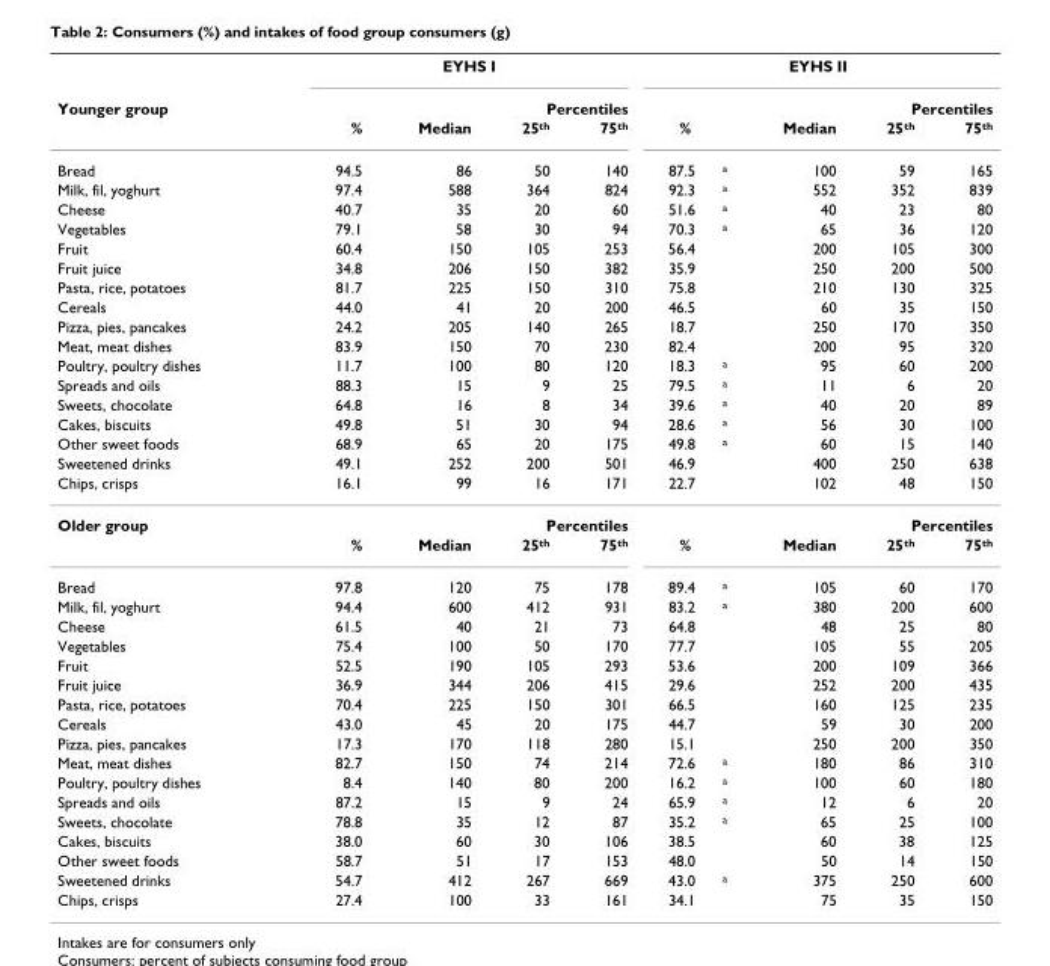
<table><thead><tr><td rowspan="20">Younger group Bread Milk, fil, yoghurt Cheese Vegetables Fruit Fruit juice Pasta, rice, potatoes Cereals Pizza, pies, pancakes Meat, meat dishes Poultry, poultry dishes Spreads and oils Sweets, chocolate Cakes, biscuits Other sweet foods Sweetened drinks Chips, crisps</td><td colspan="4">EYHS I</td><td colspan="5">EYHS II</td></tr><tr><td rowspan="19">% 94.5 97.4 40.7 79.1 60.4 34.8 81.7 44.0 24.2 83.9 11.7 88.3 64.8 49.8 68.9 49.1 16.1</td><td rowspan="19">Median 86 588 35 58 150 206 225 41 205 150 100 15 16 51 65 252 99</td><td colspan="2">Percentiles</td><td></td><td></td><td rowspan="19">Median 100 552 40 65 200 250 210 60 250 200 95 11 40 56 60 400 102</td><td colspan="2">Percentiles</td></tr><tr><td rowspan="18">25th 50 364 20 30 105 150 150 20 140 70 80 9 8 30 20 200 16</td><td rowspan="18">75th 140 824 60 94 253 382 310 200 265 230 120 25 34 94 175 501 171</td><td colspan="2">%</td><td rowspan="18">25th 59 352 23 36 105 200 130 35 170 95 60 6 20 30 15 250 48</td><td rowspan="18">75th 165 839 80 120 300 500 325 150 350 320 200 20 89 100 140 638 150</td></tr><tr><td rowspan="17">87.5 92.3 51.6 70.3 56.4 35.9 75.8 46.5 18.7 82.4 18.3 79.5 39.6 28.6 49.8 46.9 22.7</td><td rowspan="17">a a a a a a a a a</td></tr><tr></tr><tr></tr><tr></tr><tr></tr><tr></tr><tr></tr><tr></tr><tr></tr><tr></tr><tr></tr><tr></tr><tr></tr><tr></tr><tr></tr><tr></tr><tr></tr></thead><tbody><tr><td rowspan="2">Older group</td><td></td><td></td><td colspan="2">Percentiles</td><td></td><td></td><td></td><td colspan="2">Percentiles</td></tr><tr><td>%</td><td>Median</td><td>25th</td><td>75th</td><td colspan="2">%</td><td>Median</td><td>25th</td><td>75th</td></tr><tr><td>Bread</td><td>97.8</td><td>120</td><td>75</td><td>178</td><td>89.4</td><td><sup>a</sup></td><td>105</td><td>60</td><td>170</td></tr><tr><td>Milk, fil, yoghurt</td><td>94.4</td><td>600</td><td>412</td><td>931</td><td>83.2</td><td><sup>a</sup></td><td>380</td><td>200</td><td>600</td></tr><tr><td>Cheese</td><td>61.5</td><td>40</td><td>21</td><td>73</td><td>64.8</td><td></td><td>48</td><td>25</td><td>80</td></tr><tr><td>Vegetables</td><td>75.4</td><td>100</td><td>50</td><td>170</td><td>77.7</td><td></td><td>105</td><td>55</td><td>205</td></tr><tr><td>Fruit</td><td>52.5</td><td>190</td><td>105</td><td>293</td><td>53.6</td><td></td><td>200</td><td>109</td><td>366</td></tr><tr><td>Fruit juice</td><td>36.9</td><td>344</td><td>206</td><td>415</td><td>29.6</td><td></td><td>252</td><td>200</td><td>435</td></tr><tr><td>Pasta, rice, potatoes</td><td>70.4</td><td>225</td><td>150</td><td>301</td><td>66.5</td><td></td><td>160</td><td>125</td><td>235</td></tr><tr><td>Cereals</td><td>43.0</td><td>45</td><td>20</td><td>175</td><td>44.7</td><td></td><td>59</td><td>30</td><td>200</td></tr><tr><td>Pizza, pies, pancakes</td><td>17.3</td><td>170</td><td>118</td><td>280</td><td>15.1</td><td></td><td>250</td><td>200</td><td>350</td></tr><tr><td>Meat, meat dishes</td><td>82.7</td><td>150</td><td>74</td><td>214</td><td>72.6</td><td><sup>a</sup></td><td>180</td><td>86</td><td>310</td></tr><tr><td>Poultry, poultry dishes</td><td>8.4</td><td>140</td><td>80</td><td>200</td><td>16.2</td><td><sup>a</sup></td><td>100</td><td>60</td><td>180</td></tr><tr><td>Spreads and oils</td><td>87.2</td><td>15</td><td>9</td><td>24</td><td>65.9</td><td><sup>a</sup></td><td>12</td><td>6</td><td>20</td></tr><tr><td>Sweets, chocolate</td><td>78.8</td><td>35</td><td>12</td><td>87</td><td>35.2</td><td><sup>a</sup></td><td>65</td><td>25</td><td>100</td></tr><tr><td>Cakes, biscuits</td><td>38.0</td><td>60</td><td>30</td><td>106</td><td>38.5</td><td></td><td>60</td><td>38</td><td>125</td></tr><tr><td>Other sweet foods</td><td>58.7</td><td>51</td><td>17</td><td>153</td><td>48.0</td><td></td><td>50</td><td>14</td><td>150</td></tr><tr><td>Sweetened drinks</td><td>54.7</td><td>412</td><td>267</td><td>669</td><td>43.0</td><td><sup>a</sup></td><td>375</td><td>250</td><td>600</td></tr><tr><td>Chips, crisps</td><td>27.4</td><td>100</td><td>33</td><td>161</td><td>34.1</td><td></td><td>75</td><td>35</td><td>150</td></tr></tbody></table>